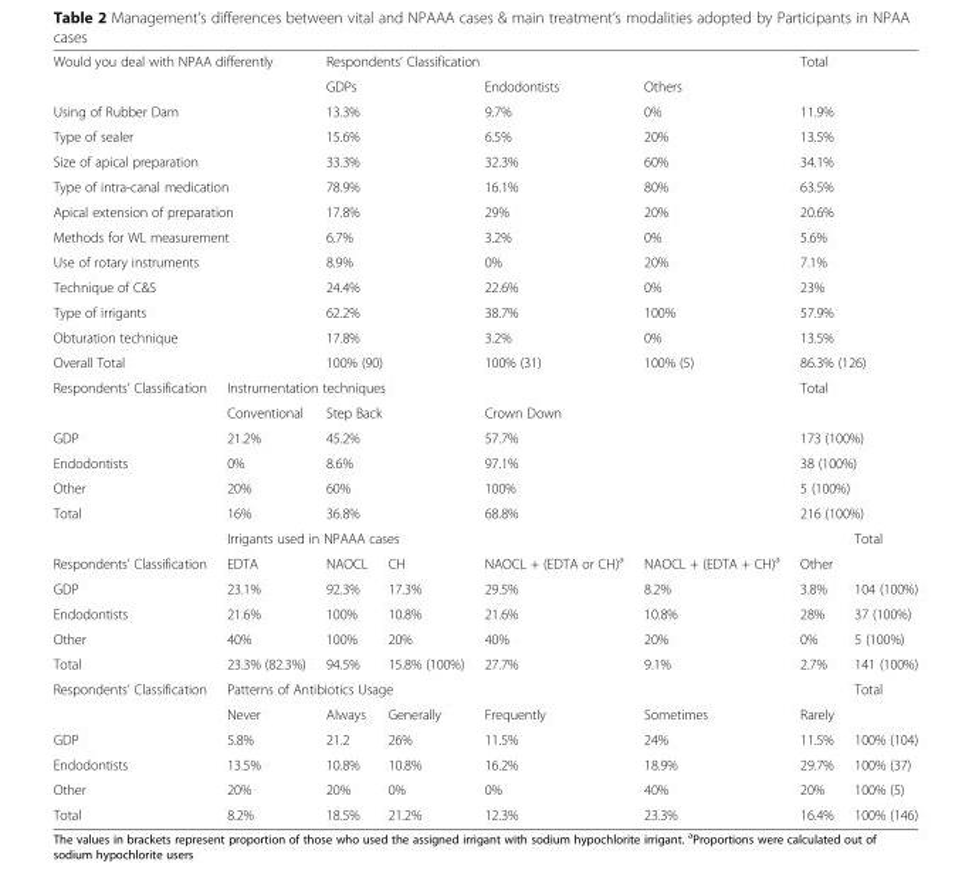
<table><tbody><tr><td rowspan="2" colspan="2">Would you deal with NPAA differently</td><td colspan="4">Respondents’ Classification</td><td rowspan="2" colspan="2">Total</td></tr><tr><td colspan="2">GDPs</td><td>Endodontists</td><td>Others</td></tr><tr><td colspan="2">Using of Rubber Dam</td><td colspan="2">13.3%</td><td>9.7%</td><td>0%</td><td colspan="2">11.9%</td></tr><tr><td colspan="2">Type of sealer</td><td colspan="2">15.6%</td><td>6.5%</td><td>20%</td><td colspan="2">13.5%</td></tr><tr><td colspan="2">Size of apical preparation</td><td colspan="2">33.3%</td><td>32.3%</td><td>60%</td><td colspan="2">34.1%</td></tr><tr><td colspan="2">Type of intra-canal medication</td><td colspan="2">78.9%</td><td>16.1%</td><td>80%</td><td colspan="2">63.5%</td></tr><tr><td colspan="2">Apical extension of preparation</td><td colspan="2">17.8%</td><td>29%</td><td>20%</td><td colspan="2">20.6%</td></tr><tr><td colspan="2">Methods for WL measurement</td><td colspan="2">6.7%</td><td>3.2%</td><td>0%</td><td colspan="2">5.6%</td></tr><tr><td colspan="2">Use of rotary instruments</td><td colspan="2">8.9%</td><td>0%</td><td>20%</td><td colspan="2">7.1%</td></tr><tr><td colspan="2">Technique of C&amp;S</td><td colspan="2">24.4%</td><td>22.6%</td><td>0%</td><td colspan="2">23%</td></tr><tr><td colspan="2">Type of irrigants</td><td colspan="2">62.2%</td><td>38.7%</td><td>100%</td><td colspan="2">57.9%</td></tr><tr><td colspan="2">Obturation technique</td><td colspan="2">17.8%</td><td>3.2%</td><td>0%</td><td colspan="2">13.5%</td></tr><tr><td colspan="2">Overall Total</td><td colspan="2">100% (90)</td><td>100% (31)</td><td>100% (5)</td><td colspan="2">86.3% (126)</td></tr><tr><td rowspan="2">Respondents’ Classification</td><td colspan="5">Instrumentation techniques</td><td colspan="2">Total</td></tr><tr><td>Conventional</td><td colspan="2">Step Back</td><td colspan="2">Crown Down</td><td colspan="2"></td></tr><tr><td>GDP</td><td>21.2%</td><td colspan="2">45.2%</td><td colspan="2">57.7%</td><td colspan="2">173 (100%)</td></tr><tr><td>Endodontists</td><td>0%</td><td colspan="2">8.6%</td><td colspan="2">97.1%</td><td colspan="2">38 (100%)</td></tr><tr><td>Other</td><td>20%</td><td colspan="2">60%</td><td colspan="2">100%</td><td colspan="2">5 (100%)</td></tr><tr><td rowspan="2">Total</td><td>16%</td><td colspan="2">36.8%</td><td colspan="2">68.8%</td><td colspan="2">216 (100%)</td></tr><tr><td colspan="6">Irrigants used in NPAAA cases</td><td>Total</td></tr><tr><td>Respondents’ Classification</td><td>EDTA</td><td>NAOCL</td><td>CH</td><td>NAOCL + (EDTA or CH)<sup>a</sup></td><td>NAOCL + (EDTA + CH)<sup>a</sup></td><td>Other</td><td></td></tr><tr><td>GDP</td><td>23.1%</td><td>92.3%</td><td>17.3%</td><td>29.5%</td><td>8.2%</td><td>3.8%</td><td>104 (100%)</td></tr><tr><td>Endodontists</td><td>21.6%</td><td>100%</td><td>10.8%</td><td>21.6%</td><td>10.8%</td><td>28%</td><td>37 (100%)</td></tr><tr><td>Other</td><td>40%</td><td>100%</td><td>20%</td><td>40%</td><td>20%</td><td>0%</td><td>5 (100%)</td></tr><tr><td>Total</td><td>23.3% (82.3%)</td><td>94.5%</td><td>15.8% (100%)</td><td>27.7%</td><td>9.1%</td><td>2.7%</td><td>141 (100%)</td></tr><tr><td rowspan="2">Respondents’ Classification</td><td colspan="6">Patterns of Antibiotics Usage</td><td>Total</td></tr><tr><td>Never</td><td>Always</td><td>Generally</td><td>Frequently</td><td>Sometimes</td><td>Rarely</td><td></td></tr><tr><td>GDP</td><td>5.8%</td><td>21.2</td><td>26%</td><td>11.5%</td><td>24%</td><td>11.5%</td><td>100% (104)</td></tr><tr><td>Endodontists</td><td>13.5%</td><td>10.8%</td><td>10.8%</td><td>16.2%</td><td>18.9%</td><td>29.7%</td><td>100% (37)</td></tr><tr><td>Other</td><td>20%</td><td>20%</td><td>0%</td><td>0%</td><td>40%</td><td>20%</td><td>100% (5)</td></tr><tr><td>Total</td><td>8.2%</td><td>18.5%</td><td>21.2%</td><td>12.3%</td><td>23.3%</td><td>16.4%</td><td>100% (146)</td></tr></tbody></table>